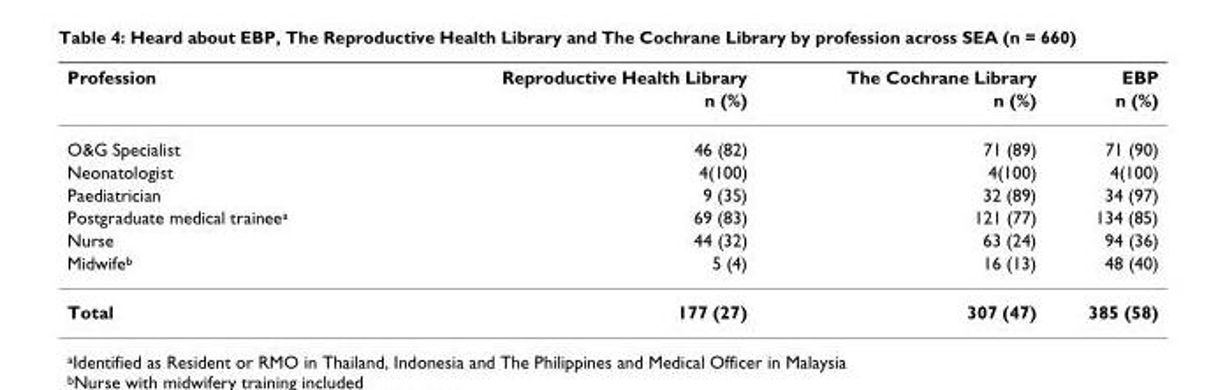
<table><thead><tr><td rowspan="2">Profession</td><td rowspan="2">Reproductive Health Library n (%)</td><td rowspan="2">The Cochrane Library n (%)</td><td rowspan="2">EBP n (%)</td></tr><tr></tr></thead><tbody><tr><td>O&amp;G Specialist</td><td>46 (82)</td><td>71 (89)</td><td>71 (90)</td></tr><tr><td>Neonatologist</td><td>4(100)</td><td>4(100)</td><td>4(100)</td></tr><tr><td>Paediatrician</td><td>9 (35)</td><td>32 (89)</td><td>34 (97)</td></tr><tr><td>Postgraduate medical trainee<sup>a</sup></td><td>69 (83)</td><td>121 (77)</td><td>134 (85)</td></tr><tr><td>Nurse</td><td>44 (32)</td><td>63 (24)</td><td>94 (36)</td></tr><tr><td>Midwife<sup>b</sup></td><td>5 (4)</td><td>16 (13)</td><td>48 (40)</td></tr><tr><td>Total</td><td>177 (27)</td><td>307 (47)</td><td>385 (58)</td></tr></tbody></table>